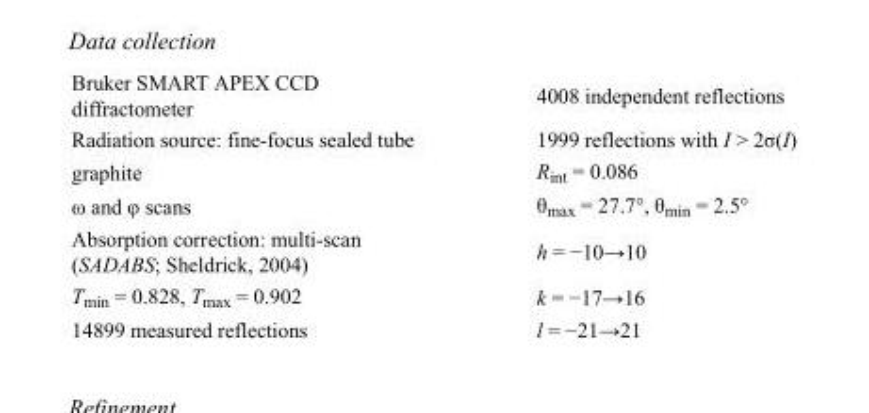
<table><tbody><tr><td>Bruker SMART APEX CCD diffractometer</td><td>4008 independent reflections</td></tr><tr><td>Radiation source: fine-focus sealed tube</td><td>1999 reflections with I &gt; 2σ(I)</td></tr><tr><td>graphite</td><td>R<sub>int</sub> = 0.086</td></tr><tr><td>ω and φ scans</td><td>θ<sub>max</sub> = 27.7°, θ<sub>min</sub> = 2.5°</td></tr><tr><td>Absorption correction: multi-scan (SADABS; Sheldrick, 2004)</td><td>h = −10→10</td></tr><tr><td>T<sub>min</sub> = 0.828, T<sub>max</sub> = 0.902</td><td>k = −17→16</td></tr><tr><td>14899 measured reflections</td><td>l = −21→21</td></tr></tbody></table>